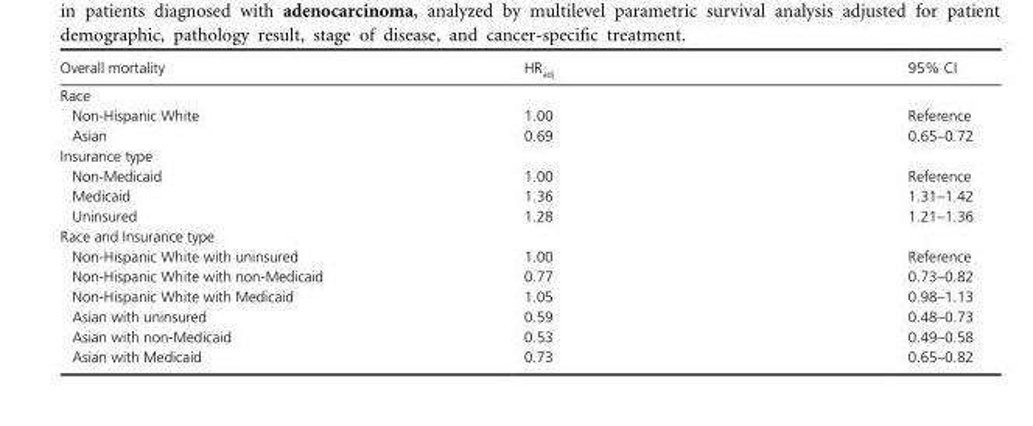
<table><thead><tr><td>Overall mortality</td><td>HR<sub>adj</sub></td><td>95% CI</td></tr></thead><tbody><tr><td colspan="3">Race</td></tr><tr><td>Non- Hispanic White</td><td>1.00</td><td>Reference</td></tr><tr><td>Asian</td><td>0.69</td><td>0.65–0.72</td></tr><tr><td colspan="3">Insurance type</td></tr><tr><td>Non- Medicaid</td><td>1.00</td><td>Reference</td></tr><tr><td>Medicaid</td><td>1.36</td><td>1.31–1.42</td></tr><tr><td>Uninsured</td><td>1.28</td><td>1.21–1.36</td></tr><tr><td colspan="3">Race and Insurance type</td></tr><tr><td>Non- Hispanic White with uninsured</td><td>1.00</td><td>Reference</td></tr><tr><td>Non- Hispanic White with non- Medicaid</td><td>0.77</td><td>0.73–0.82</td></tr><tr><td>Non- Hispanic White with Medicaid</td><td>1.05</td><td>0.98–1.13</td></tr><tr><td>Asian with uninsured</td><td>0.59</td><td>0.48–0.73</td></tr><tr><td>Asian with non- Medicaid</td><td>0.53</td><td>0.49–0.58</td></tr><tr><td>Asian with Medicaid</td><td>0.73</td><td>0.65–0.82</td></tr></tbody></table>